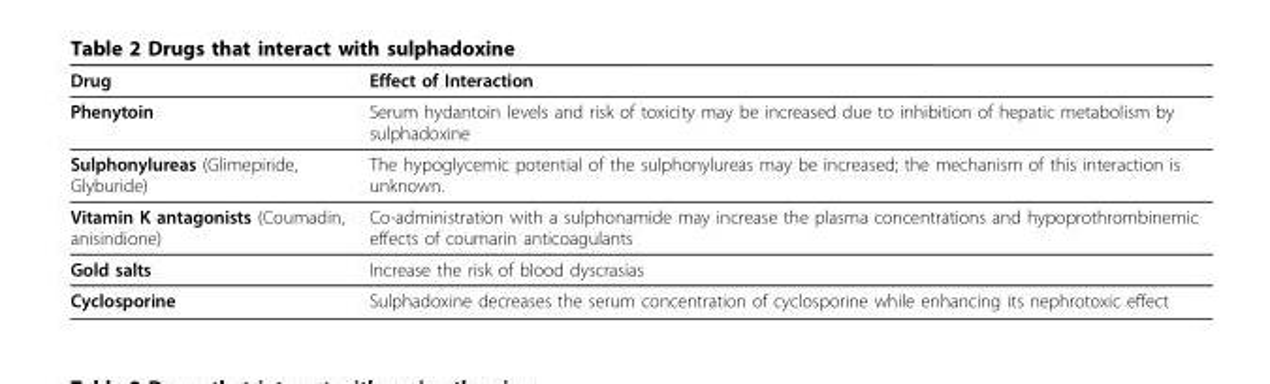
<table><thead><tr><td>Drug</td><td>Effect of Interaction</td></tr></thead><tbody><tr><td>Phenytoin</td><td>Serum hydantoin levels and risk of toxicity may be increased due to inhibition of hepatic metabolism by sulphadoxine</td></tr><tr><td>Sulphonylureas (Glimepiride, Glyburide)</td><td>The hypoglycemic potential of the sulphonylureas may be increased; the mechanism of this interaction is unknown.</td></tr><tr><td>Vitamin K antagonists (Coumadin, anisindione)</td><td>Co-administration with a sulphonamide may increase the plasma concentrations and hypoprothrombinemic effects of coumarin anticoagulants</td></tr><tr><td>Gold salts</td><td>Increase the risk of blood dyscrasias</td></tr><tr><td>Cyclosporine</td><td>Sulphadoxine decreases the serum concentration of cyclosporine while enhancing its nephrotoxic effect</td></tr></tbody></table>